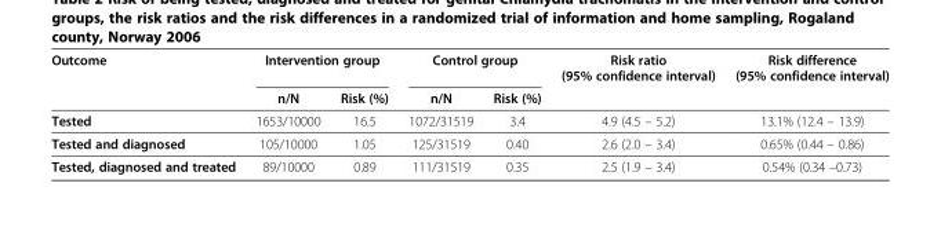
<table><thead><tr><td rowspan="2">Outcome</td><td colspan="2">Intervention group</td><td colspan="2">Control group</td><td rowspan="2">Risk ratio (95% confidence interval)</td><td rowspan="2">Risk difference (95% confidence interval)</td></tr><tr><td>n/N</td><td>Risk (%)</td><td>n/N</td><td>Risk (%)</td></tr></thead><tbody><tr><td>Tested</td><td>1653/10000</td><td>16.5</td><td>1072/31519</td><td>3.4</td><td>4.9 (4.5 – 5.2)</td><td>13.1% (12.4 – 13.9)</td></tr><tr><td>Tested and diagnosed</td><td>105/10000</td><td>1.05</td><td>125/31519</td><td>0.40</td><td>2.6 (2.0 – 3.4)</td><td>0.65% (0.44 – 0.86)</td></tr><tr><td>Tested, diagnosed and treated</td><td>89/10000</td><td>0.89</td><td>111/31519</td><td>0.35</td><td>2.5 (1.9 – 3.4)</td><td>0.54% (0.34 –0.73)</td></tr></tbody></table>